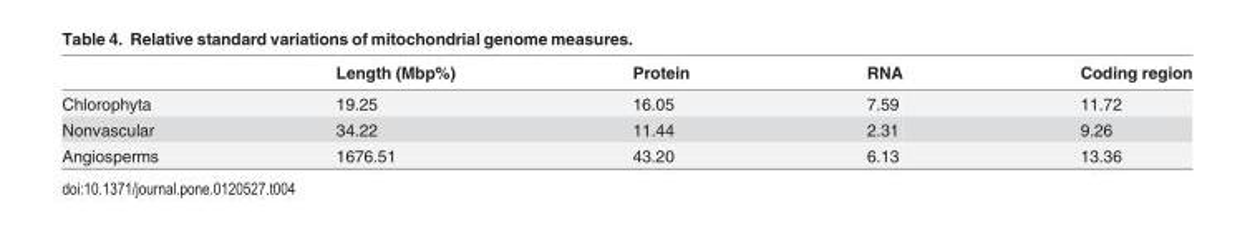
<table><thead><tr><td></td><td>Length (Mbp%)</td><td>Protein</td><td>RNA</td><td>Coding region</td></tr></thead><tbody><tr><td>Chlorophyta</td><td>19.25</td><td>16.05</td><td>7.59</td><td>11.72</td></tr><tr><td>Nonvascular</td><td>34.22</td><td>11.44</td><td>2.31</td><td>9.26</td></tr><tr><td>Angiosperms</td><td>1676.51</td><td>43.20</td><td>6.13</td><td>13.36</td></tr></tbody></table>